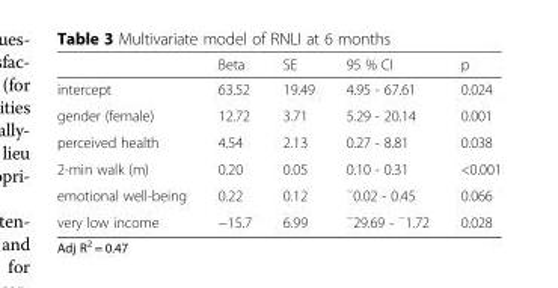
<table><thead><tr><td></td><td>Beta</td><td>SE</td><td>95 % CI</td><td>p</td></tr></thead><tbody><tr><td>intercept</td><td>63.52</td><td>19.49</td><td>4.95 - 67.61</td><td>0.024</td></tr><tr><td>gender (female)</td><td>12.72</td><td>3.71</td><td>5.29 - 20.14</td><td>0.001</td></tr><tr><td>perceived health</td><td>4.54</td><td>2.13</td><td>0.27 - 8.81</td><td>0.038</td></tr><tr><td>2-min walk (m)</td><td>0.20</td><td>0.05</td><td>0.10 - 0.31</td><td>&lt;0.001</td></tr><tr><td>emotional well-being</td><td>0.22</td><td>0.12</td><td><sup>−</sup>0.02 - 0.45</td><td>0.066</td></tr><tr><td>very low income</td><td>−15.7</td><td>6.99</td><td><sup>−</sup>29.69 - <sup>−</sup>1.72</td><td>0.028</td></tr></tbody></table>